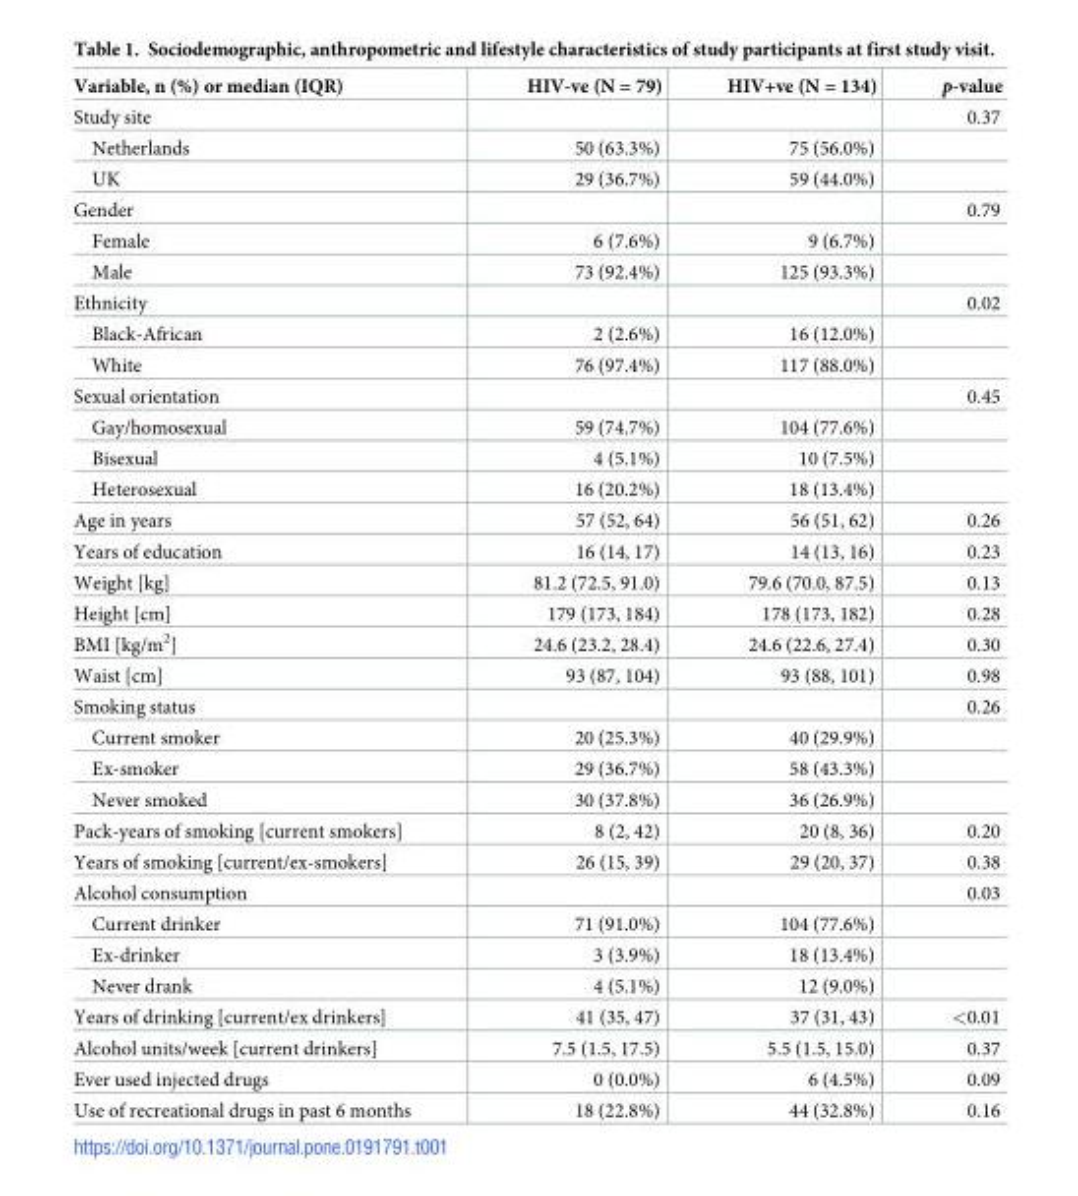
<table><thead><tr><td>Variable, n (%) or median (IQR)</td><td>HIV-ve (N = 79)</td><td>HIV+ve (N = 134)</td><td>p-value</td></tr></thead><tbody><tr><td>Study site</td><td></td><td></td><td>0.37</td></tr><tr><td>Netherlands</td><td>50 (63.3%)</td><td>75 (56.0%)</td><td></td></tr><tr><td>UK</td><td>29 (36.7%)</td><td>59 (44.0%)</td><td></td></tr><tr><td>Gender</td><td></td><td></td><td>0.79</td></tr><tr><td>Female</td><td>6 (7.6%)</td><td>9 (6.7%)</td><td></td></tr><tr><td>Male</td><td>73 (92.4%)</td><td>125 (93.3%)</td><td></td></tr><tr><td>Ethnicity</td><td></td><td></td><td>0.02</td></tr><tr><td>Black-African</td><td>2 (2.6%)</td><td>16 (12.0%)</td><td></td></tr><tr><td>White</td><td>76 (97.4%)</td><td>117 (88.0%)</td><td></td></tr><tr><td>Sexual orientation</td><td></td><td></td><td>0.45</td></tr><tr><td>Gay/homosexual</td><td>59 (74.7%)</td><td>104 (77.6%)</td><td></td></tr><tr><td>Bisexual</td><td>4 (5.1%)</td><td>10 (7.5%)</td><td></td></tr><tr><td>Heterosexual</td><td>16 (20.2%)</td><td>18 (13.4%)</td><td></td></tr><tr><td>Age in years</td><td>57 (52, 64)</td><td>56 (51, 62)</td><td>0.26</td></tr><tr><td>Years of education</td><td>16 (14, 17)</td><td>14 (13, 16)</td><td>0.23</td></tr><tr><td>Weight [kg]</td><td>81.2 (72.5, 91.0)</td><td>79.6 (70.0, 87.5)</td><td>0.13</td></tr><tr><td>Height [cm]</td><td>179 (173, 184)</td><td>178 (173, 182)</td><td>0.28</td></tr><tr><td>BMI [kg/m<sup>2</sup>]</td><td>24.6 (23.2, 28.4)</td><td>24.6 (22.6, 27.4)</td><td>0.30</td></tr><tr><td>Waist [cm]</td><td>93 (87, 104)</td><td>93 (88, 101)</td><td>0.98</td></tr><tr><td>Smoking status</td><td></td><td></td><td>0.26</td></tr><tr><td>Current smoker</td><td>20 (25.3%)</td><td>40 (29.9%)</td><td></td></tr><tr><td>Ex-smoker</td><td>29 (36.7%)</td><td>58 (43.3%)</td><td></td></tr><tr><td>Never smoked</td><td>30 (37.8%)</td><td>36 (26.9%)</td><td></td></tr><tr><td>Pack-years of smoking [current smokers]</td><td>8 (2, 42)</td><td>20 (8, 36)</td><td>0.20</td></tr><tr><td>Years of smoking [current/ex-smokers]</td><td>26 (15, 39)</td><td>29 (20, 37)</td><td>0.38</td></tr><tr><td>Alcohol consumption</td><td></td><td></td><td>0.03</td></tr><tr><td>Current drinker</td><td>71 (91.0%)</td><td>104 (77.6%)</td><td></td></tr><tr><td>Ex-drinker</td><td>3 (3.9%)</td><td>18 (13.4%)</td><td></td></tr><tr><td>Never drank</td><td>4 (5.1%)</td><td>12 (9.0%)</td><td></td></tr><tr><td>Years of drinking [current/ex drinkers]</td><td>41 (35, 47)</td><td>37 (31, 43)</td><td>&lt;0.01</td></tr><tr><td>Alcohol units/week [current drinkers]</td><td>7.5 (1.5, 17.5)</td><td>5.5 (1.5, 15.0)</td><td>0.37</td></tr><tr><td>Ever used injected drugs</td><td>0 (0.0%)</td><td>6 (4.5%)</td><td>0.09</td></tr><tr><td>Use of recreational drugs in past 6 months</td><td>18 (22.8%)</td><td>44 (32.8%)</td><td>0.16</td></tr></tbody></table>